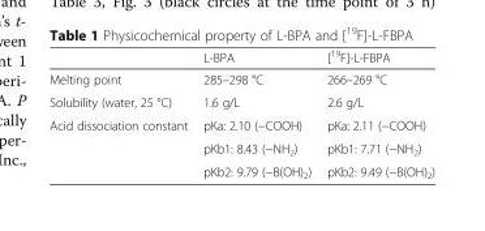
<table><thead><tr><td></td><td>L-BPA</td><td>[<sup>19</sup>F]-L-FBPA</td></tr></thead><tbody><tr><td>Melting point</td><td>285–298 °C</td><td>266–269 °C</td></tr><tr><td>Solubility (water, 25 °C)</td><td>1.6 g/L</td><td>2.6 g/L</td></tr><tr><td rowspan="3">Acid dissociation constant</td><td>pKa: 2.10 (−COOH)</td><td>pKa: 2.11 (−COOH)</td></tr><tr><td>pKb1: 8.43 (−NH<sub>2</sub>)</td><td>pKb1: 7.71 (−NH<sub>2</sub>)</td></tr><tr><td>pKb2: 9.79 (−B(OH)<sub>2</sub>)</td><td>pKb2: 9.49 (−B(OH)<sub>2</sub>)</td></tr></tbody></table>